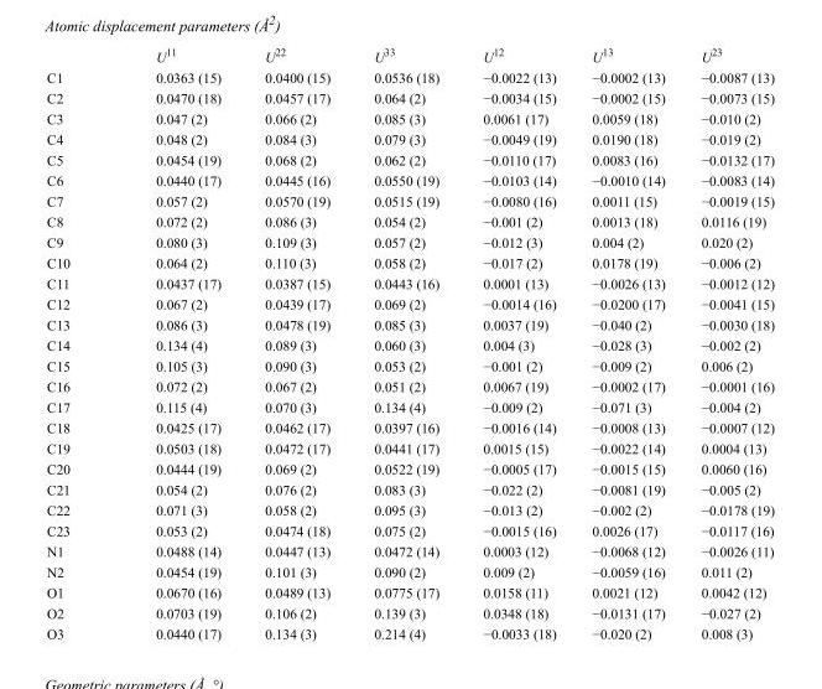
<table><thead><tr><td></td><td>U<sup>11</sup></td><td>U<sup>22</sup></td><td>U<sup>33</sup></td><td>U<sup>12</sup></td><td>U<sup>13</sup></td><td>U<sup>23</sup></td></tr></thead><tbody><tr><td>C1</td><td>0.0363 (15)</td><td>0.0400 (15)</td><td>0.0536 (18)</td><td>−0.0022 (13)</td><td>−0.0002 (13)</td><td>−0.0087 (13)</td></tr><tr><td>C2</td><td>0.0470 (18)</td><td>0.0457 (17)</td><td>0.064 (2)</td><td>−0.0034 (15)</td><td>−0.0002 (15)</td><td>−0.0073 (15)</td></tr><tr><td>C3</td><td>0.047 (2)</td><td>0.066 (2)</td><td>0.085 (3)</td><td>0.0061 (17)</td><td>0.0059 (18)</td><td>−0.010 (2)</td></tr><tr><td>C4</td><td>0.048 (2)</td><td>0.084 (3)</td><td>0.079 (3)</td><td>−0.0049 (19)</td><td>0.0190 (18)</td><td>−0.019 (2)</td></tr><tr><td>C5</td><td>0.0454 (19)</td><td>0.068 (2)</td><td>0.062 (2)</td><td>−0.0110 (17)</td><td>0.0083 (16)</td><td>−0.0132 (17)</td></tr><tr><td>C6</td><td>0.0440 (17)</td><td>0.0445 (16)</td><td>0.0550 (19)</td><td>−0.0103 (14)</td><td>−0.0010 (14)</td><td>−0.0083 (14)</td></tr><tr><td>C7</td><td>0.057 (2)</td><td>0.0570 (19)</td><td>0.0515 (19)</td><td>−0.0080 (16)</td><td>0.0011 (15)</td><td>−0.0019 (15)</td></tr><tr><td>C8</td><td>0.072 (2)</td><td>0.086 (3)</td><td>0.054 (2)</td><td>−0.001 (2)</td><td>0.0013 (18)</td><td>0.0116 (19)</td></tr><tr><td>C9</td><td>0.080 (3)</td><td>0.109 (3)</td><td>0.057 (2)</td><td>−0.012 (3)</td><td>0.004 (2)</td><td>0.020 (2)</td></tr><tr><td>C10</td><td>0.064 (2)</td><td>0.110 (3)</td><td>0.058 (2)</td><td>−0.017 (2)</td><td>0.0178 (19)</td><td>−0.006 (2)</td></tr><tr><td>C11</td><td>0.0437 (17)</td><td>0.0387 (15)</td><td>0.0443 (16)</td><td>0.0001 (13)</td><td>−0.0026 (13)</td><td>−0.0012 (12)</td></tr><tr><td>C12</td><td>0.067 (2)</td><td>0.0439 (17)</td><td>0.069 (2)</td><td>−0.0014 (16)</td><td>−0.0200 (17)</td><td>−0.0041 (15)</td></tr><tr><td>C13</td><td>0.086 (3)</td><td>0.0478 (19)</td><td>0.085 (3)</td><td>0.0037 (19)</td><td>−0.040 (2)</td><td>−0.0030 (18)</td></tr><tr><td>C14</td><td>0.134 (4)</td><td>0.089 (3)</td><td>0.060 (3)</td><td>0.004 (3)</td><td>−0.028 (3)</td><td>−0.002 (2)</td></tr><tr><td>C15</td><td>0.105 (3)</td><td>0.090 (3)</td><td>0.053 (2)</td><td>−0.001 (2)</td><td>−0.009 (2)</td><td>0.006 (2)</td></tr><tr><td>C16</td><td>0.072 (2)</td><td>0.067 (2)</td><td>0.051 (2)</td><td>0.0067 (19)</td><td>−0.0002 (17)</td><td>−0.0001 (16)</td></tr><tr><td>C17</td><td>0.115 (4)</td><td>0.070 (3)</td><td>0.134 (4)</td><td>−0.009 (2)</td><td>−0.071 (3)</td><td>−0.004 (2)</td></tr><tr><td>C18</td><td>0.0425 (17)</td><td>0.0462 (17)</td><td>0.0397 (16)</td><td>−0.0016 (14)</td><td>−0.0008 (13)</td><td>−0.0007 (12)</td></tr><tr><td>C19</td><td>0.0503 (18)</td><td>0.0472 (17)</td><td>0.0441 (17)</td><td>0.0015 (15)</td><td>−0.0022 (14)</td><td>0.0004 (13)</td></tr><tr><td>C20</td><td>0.0444 (19)</td><td>0.069 (2)</td><td>0.0522 (19)</td><td>−0.0005 (17)</td><td>−0.0015 (15)</td><td>0.0060 (16)</td></tr><tr><td>C21</td><td>0.054 (2)</td><td>0.076 (2)</td><td>0.083 (3)</td><td>−0.022 (2)</td><td>−0.0081 (19)</td><td>−0.005 (2)</td></tr><tr><td>C22</td><td>0.071 (3)</td><td>0.058 (2)</td><td>0.095 (3)</td><td>−0.013 (2)</td><td>−0.002 (2)</td><td>−0.0178 (19)</td></tr><tr><td>C23</td><td>0.053 (2)</td><td>0.0474 (18)</td><td>0.075 (2)</td><td>−0.0015 (16)</td><td>0.0026 (17)</td><td>−0.0117 (16)</td></tr><tr><td>N1</td><td>0.0488 (14)</td><td>0.0447 (13)</td><td>0.0472 (14)</td><td>0.0003 (12)</td><td>−0.0068 (12)</td><td>−0.0026 (11)</td></tr><tr><td>N2</td><td>0.0454 (19)</td><td>0.101 (3)</td><td>0.090 (2)</td><td>0.009 (2)</td><td>−0.0059 (16)</td><td>0.011 (2)</td></tr><tr><td>O1</td><td>0.0670 (16)</td><td>0.0489 (13)</td><td>0.0775 (17)</td><td>0.0158 (11)</td><td>0.0021 (12)</td><td>0.0042 (12)</td></tr><tr><td>O2</td><td>0.0703 (19)</td><td>0.106 (2)</td><td>0.139 (3)</td><td>0.0348 (18)</td><td>−0.0131 (17)</td><td>−0.027 (2)</td></tr><tr><td>O3</td><td>0.0440 (17)</td><td>0.134 (3)</td><td>0.214 (4)</td><td>−0.0033 (18)</td><td>−0.020 (2)</td><td>0.008 (3)</td></tr></tbody></table>